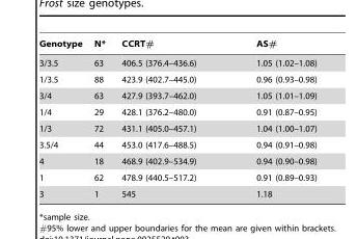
<table><thead><tr><td>Genotype</td><td>N*</td><td>CCRT#</td><td>AS#</td></tr></thead><tbody><tr><td>3/3.5</td><td>63</td><td>406.5 (376.4–436.6)</td><td>1.05 (1.02–1.08)</td></tr><tr><td>1/3.5</td><td>88</td><td>423.9 (402.7–445.0)</td><td>0.96 (0.93–0.98)</td></tr><tr><td>3/4</td><td>63</td><td>427.9 (393.7–462.0)</td><td>1.05 (1.01–1.09)</td></tr><tr><td>1/4</td><td>29</td><td>428.1 (376.2–480.0)</td><td>0.91 (0.87–0.95)</td></tr><tr><td>1/3</td><td>72</td><td>431.1 (405.0–457.1)</td><td>1.04 (1.00–1.07)</td></tr><tr><td>3.5/4</td><td>44</td><td>453.0 (417.6–488.5)</td><td>0.94 (0.91–0.98)</td></tr><tr><td>4</td><td>18</td><td>468.9 (402.9–534.9)</td><td>0.94 (0.90–0.98)</td></tr><tr><td>1</td><td>62</td><td>478.9 (440.5–517.2)</td><td>0.91 (0.89–0.93)</td></tr><tr><td>3</td><td>1</td><td>545</td><td>1.18</td></tr></tbody></table>